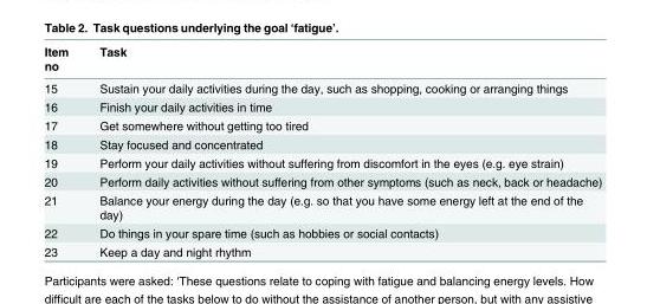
<table><thead><tr><td>Item no</td><td>Task</td></tr></thead><tbody><tr><td>15</td><td>Sustain your daily activities during the day, such as shopping, cooking or arranging things</td></tr><tr><td>16</td><td>Finish your daily activities in time</td></tr><tr><td>17</td><td>Get somewhere without getting too tired</td></tr><tr><td>18</td><td>Stay focused and concentrated</td></tr><tr><td>19</td><td>Perform your daily activities without suffering from discomfort in the eyes (e.g. eye strain)</td></tr><tr><td>20</td><td>Perform daily activities without suffering from other symptoms (such as neck, back or headache)</td></tr><tr><td>21</td><td>Balance your energy during the day (e.g. so that you have some energy left at the end of the day)</td></tr><tr><td>22</td><td>Do things in your spare time (such as hobbies or social contacts)</td></tr><tr><td>23</td><td>Keep a day and night rhythm</td></tr></tbody></table>